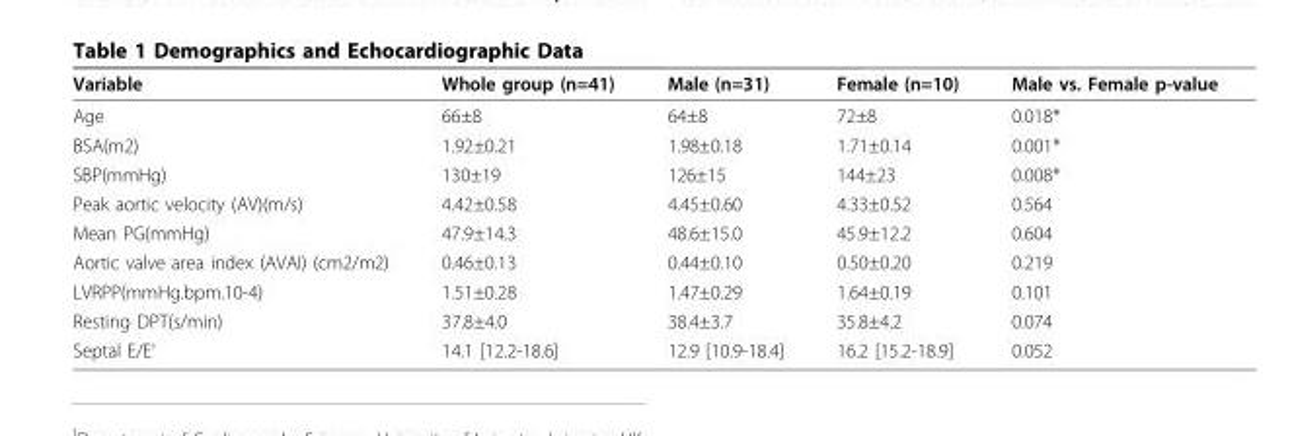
<table><thead><tr><td>Variable</td><td>Whole group (n=41)</td><td>Male (n=31)</td><td>Female (n=10)</td><td>Male vs. Female p-value</td></tr></thead><tbody><tr><td>Age</td><td>66±8</td><td>64±8</td><td>72±8</td><td>0.018*</td></tr><tr><td>BSA(m2)</td><td>1.92±0.21</td><td>1.98±0.18</td><td>1.71±0.14</td><td>0.001*</td></tr><tr><td>SBP(mmHg)</td><td>130±19</td><td>126±15</td><td>144±23</td><td>0.008*</td></tr><tr><td>Peak aortic velocity (AV)(m/s)</td><td>4.42±0.58</td><td>4.45±0.60</td><td>4.33±0.52</td><td>0.564</td></tr><tr><td>Mean PG(mmHg)</td><td>47.9±14.3</td><td>48.6±15.0</td><td>45.9±12.2</td><td>0.604</td></tr><tr><td>Aortic valve area index (AVAI) (cm2/m2)</td><td>0.46±0.13</td><td>0.44±0.10</td><td>0.50±0.20</td><td>0.219</td></tr><tr><td>LVRPP(mmHg.bpm.10-4)</td><td>1.51±0.28</td><td>1.47±0.29</td><td>1.64±0.19</td><td>0.101</td></tr><tr><td>Resting DPT(s/min)</td><td>37.8±4.0</td><td>38.4±3.7</td><td>35.8±4.2</td><td>0.074</td></tr><tr><td>Septal E/E’</td><td>14.1 [12.2-18.6]</td><td>12.9 [10.9-18.4]</td><td>16.2 [15.2-18.9]</td><td>0.052</td></tr></tbody></table>